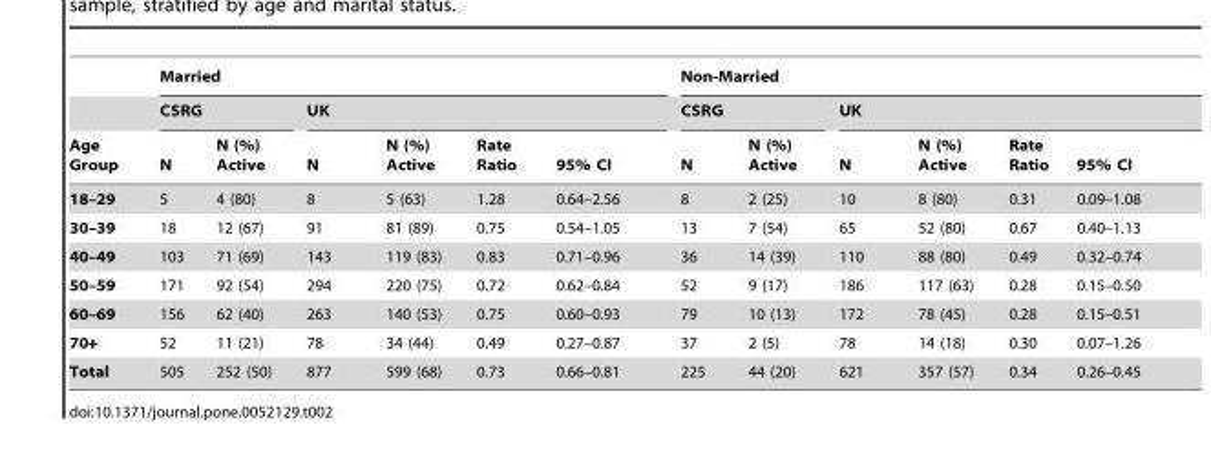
<table><thead><tr><td rowspan="3">Age Group</td><td colspan="6">Married</td><td colspan="6">Non-Married</td></tr><tr><td colspan="2">CSRG</td><td colspan="4">UK</td><td colspan="2">CSRG</td><td colspan="4">UK</td></tr><tr><td>N</td><td>N (%) Active</td><td>N</td><td>N (%) Active</td><td>Rate Ratio</td><td>95% CI</td><td>N</td><td>N (%) Active</td><td>N</td><td>N (%) Active</td><td>Rate Ratio</td><td>95% CI</td></tr></thead><tbody><tr><td>18–29</td><td>5</td><td>4 (80)</td><td>8</td><td>5 (63)</td><td>1.28</td><td>0.64–2.56</td><td>8</td><td>2 (25)</td><td>10</td><td>8 (80)</td><td>0.31</td><td>0.09–1.08</td></tr><tr><td>30–39</td><td>18</td><td>12 (67)</td><td>91</td><td>81 (89)</td><td>0.75</td><td>0.54–1.05</td><td>13</td><td>7 (54)</td><td>65</td><td>52 (80)</td><td>0.67</td><td>0.40–1.13</td></tr><tr><td>40–49</td><td>103</td><td>71 (69)</td><td>143</td><td>119 (83)</td><td>0.83</td><td>0.71–0.96</td><td>36</td><td>14 (39)</td><td>110</td><td>88 (80)</td><td>0.49</td><td>0.32–0.74</td></tr><tr><td>50–59</td><td>171</td><td>92 (54)</td><td>294</td><td>220 (75)</td><td>0.72</td><td>0.62–0.84</td><td>52</td><td>9 (17)</td><td>186</td><td>117 (63)</td><td>0.28</td><td>0.15–0.50</td></tr><tr><td>60–69</td><td>156</td><td>62 (40)</td><td>263</td><td>140 (53)</td><td>0.75</td><td>0.60–0.93</td><td>79</td><td>10 (13)</td><td>172</td><td>78 (45)</td><td>0.28</td><td>0.15–0.51</td></tr><tr><td>70+</td><td>52</td><td>11 (21)</td><td>78</td><td>34 (44)</td><td>0.49</td><td>0.27–0.87</td><td>37</td><td>2 (5)</td><td>78</td><td>14 (18)</td><td>0.30</td><td>0.07–1.26</td></tr><tr><td>Total</td><td>505</td><td>252 (50)</td><td>877</td><td>599 (68)</td><td>0.73</td><td>0.66–0.81</td><td>225</td><td>44 (20)</td><td>621</td><td>357 (57)</td><td>0.34</td><td>0.26–0.45</td></tr></tbody></table>